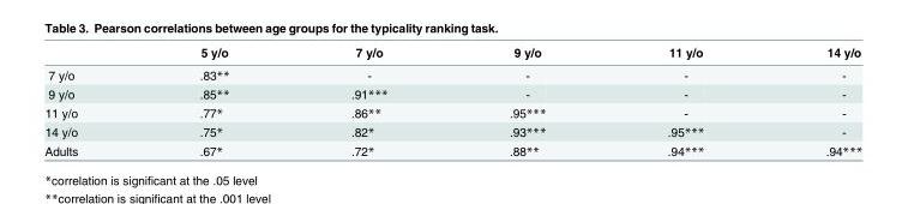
<table><thead><tr><td></td><td>5 y/o</td><td>7 y/o</td><td>9 y/o</td><td>11 y/o</td><td>14 y/o</td></tr></thead><tbody><tr><td>7 y/o</td><td>.83**</td><td>-</td><td>-</td><td>-</td><td>-</td></tr><tr><td>9 y/o</td><td>.85**</td><td>.91***</td><td>-</td><td>-</td><td>-</td></tr><tr><td>11 y/o</td><td>.77*</td><td>.86**</td><td>.95***</td><td>-</td><td>-</td></tr><tr><td>14 y/o</td><td>.75*</td><td>.82*</td><td>.93***</td><td>.95***</td><td>-</td></tr><tr><td>Adults</td><td>.67*</td><td>.72*</td><td>.88**</td><td>.94***</td><td>.94***</td></tr></tbody></table>